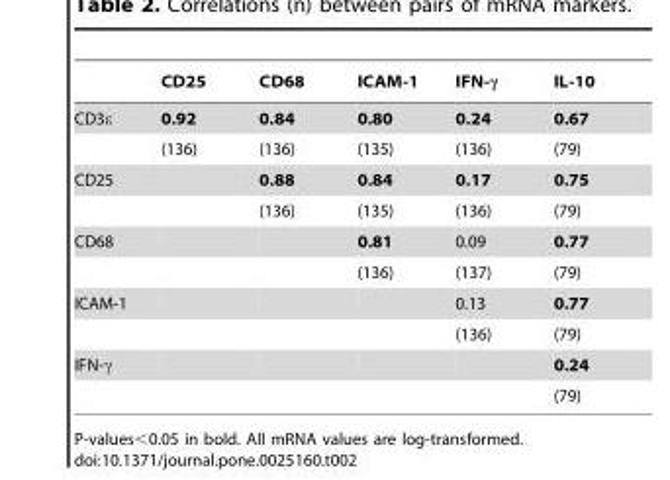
<table><thead><tr><td></td><td>CD25</td><td>CD68</td><td>ICAM-1</td><td>IFN-γ</td><td>IL-10</td></tr></thead><tbody><tr><td rowspan="2">CD3ε</td><td>0.92</td><td>0.84</td><td>0.80</td><td>0.24</td><td>0.67</td></tr><tr><td>(136)</td><td>(136)</td><td>(135)</td><td>(136)</td><td>(79)</td></tr><tr><td rowspan="2">CD25</td><td></td><td>0.88</td><td>0.84</td><td>0.17</td><td>0.75</td></tr><tr><td></td><td>(136)</td><td>(135)</td><td>(136)</td><td>(79)</td></tr><tr><td rowspan="2">CD68</td><td></td><td></td><td>0.81</td><td>0.09</td><td>0.77</td></tr><tr><td></td><td></td><td>(136)</td><td>(137)</td><td>(79)</td></tr><tr><td rowspan="2">ICAM-1</td><td></td><td></td><td></td><td>0.13</td><td>0.77</td></tr><tr><td></td><td></td><td></td><td>(136)</td><td>(79)</td></tr><tr><td rowspan="2">IFN-γ</td><td></td><td></td><td></td><td></td><td>0.24</td></tr><tr><td></td><td></td><td></td><td></td><td>(79)</td></tr></tbody></table>